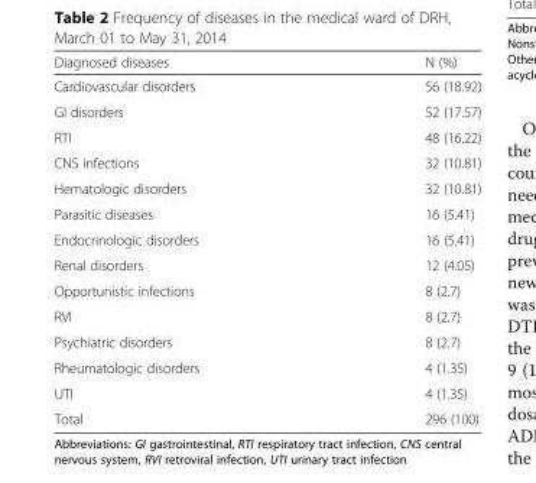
<table><thead><tr><td>Diagnosed diseases</td><td>N (%)</td></tr></thead><tbody><tr><td>Cardiovascular disorders</td><td>56 (18.92)</td></tr><tr><td>GI disorders</td><td>52 (17.57)</td></tr><tr><td>RTI</td><td>48 (16.22)</td></tr><tr><td>CNS infections</td><td>32 (10.81)</td></tr><tr><td>Hematologic disorders</td><td>32 (10.81)</td></tr><tr><td>Parasitic diseases</td><td>16 (5.41)</td></tr><tr><td>Endocrinologic disorders</td><td>16 (5.41)</td></tr><tr><td>Renal disorders</td><td>12 (4.05)</td></tr><tr><td>Opportunistic infections</td><td>8 (2.7)</td></tr><tr><td>RVI</td><td>8 (2.7)</td></tr><tr><td>Psychiatric disorders</td><td>8 (2.7)</td></tr><tr><td>Rheumatologic disorders</td><td>4 (1.35)</td></tr><tr><td>UTI</td><td>4 (1.35)</td></tr><tr><td>Total</td><td>296 (100)</td></tr></tbody></table>